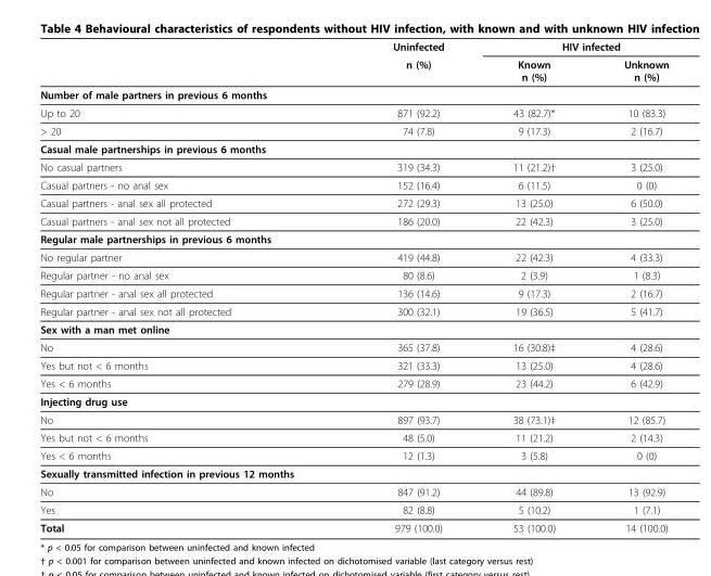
<table><thead><tr><td rowspan="2"></td><td rowspan="2">Uninfected n (%)</td><td colspan="2">HIV infected</td></tr><tr><td>Known n (%)</td><td>Unknown n (%)</td></tr></thead><tbody><tr><td colspan="4">Number of male partners in previous 6 months</td></tr><tr><td>Up to 20</td><td>871 (92.2)</td><td>43 (82.7)*</td><td>10 (83.3)</td></tr><tr><td>&gt; 20</td><td>74 (7.8)</td><td>9 (17.3)</td><td>2 (16.7)</td></tr><tr><td colspan="4">Casual male partnerships in previous 6 months</td></tr><tr><td>No casual partners</td><td>319 (34.3)</td><td>11 (21.2)†</td><td>3 (25.0)</td></tr><tr><td>Casual partners - no anal sex</td><td>152 (16.4)</td><td>6 (11.5)</td><td>0 (0)</td></tr><tr><td>Casual partners - anal sex all protected</td><td>272 (29.3)</td><td>13 (25.0)</td><td>6 (50.0)</td></tr><tr><td>Casual partners - anal sex not all protected</td><td>186 (20.0)</td><td>22 (42.3)</td><td>3 (25.0)</td></tr><tr><td colspan="4">Regular male partnerships in previous 6 months</td></tr><tr><td>No regular partner</td><td>419 (44.8)</td><td>22 (42.3)</td><td>4 (33.3)</td></tr><tr><td>Regular partner - no anal sex</td><td>80 (8.6)</td><td>2 (3.9)</td><td>1 (8.3)</td></tr><tr><td>Regular partner - anal sex all protected</td><td>136 (14.6)</td><td>9 (17.3)</td><td>2 (16.7)</td></tr><tr><td>Regular partner - anal sex not all protected</td><td>300 (32.1)</td><td>19 (36.5)</td><td>5 (41.7)</td></tr><tr><td colspan="4">Sex with a man met online</td></tr><tr><td>No</td><td>365 (37.8)</td><td>16 (30.8)‡</td><td>4 (28.6)</td></tr><tr><td>Yes but not &lt; 6 months</td><td>321 (33.3)</td><td>13 (25.0)</td><td>4 (28.6)</td></tr><tr><td>Yes &lt; 6 months</td><td>279 (28.9)</td><td>23 (44.2)</td><td>6 (42.9)</td></tr><tr><td colspan="4">Injecting drug use</td></tr><tr><td>No</td><td>897 (93.7)</td><td>38 (73.1)‡</td><td>12 (85.7)</td></tr><tr><td>Yes but not &lt; 6 months</td><td>48 (5.0)</td><td>11 (21.2)</td><td>2 (14.3)</td></tr><tr><td>Yes &lt; 6 months</td><td>12 (1.3)</td><td>3 (5.8)</td><td>0 (0)</td></tr><tr><td colspan="4">Sexually transmitted infection in previous 12 months</td></tr><tr><td>No</td><td>847 (91.2)</td><td>44 (89.8)</td><td>13 (92.9)</td></tr><tr><td>Yes</td><td>82 (8.8)</td><td>5 (10.2)</td><td>1 (7.1)</td></tr><tr><td>Total</td><td>979 (100.0)</td><td>53 (100.0)</td><td>14 (100.0)</td></tr></tbody></table>